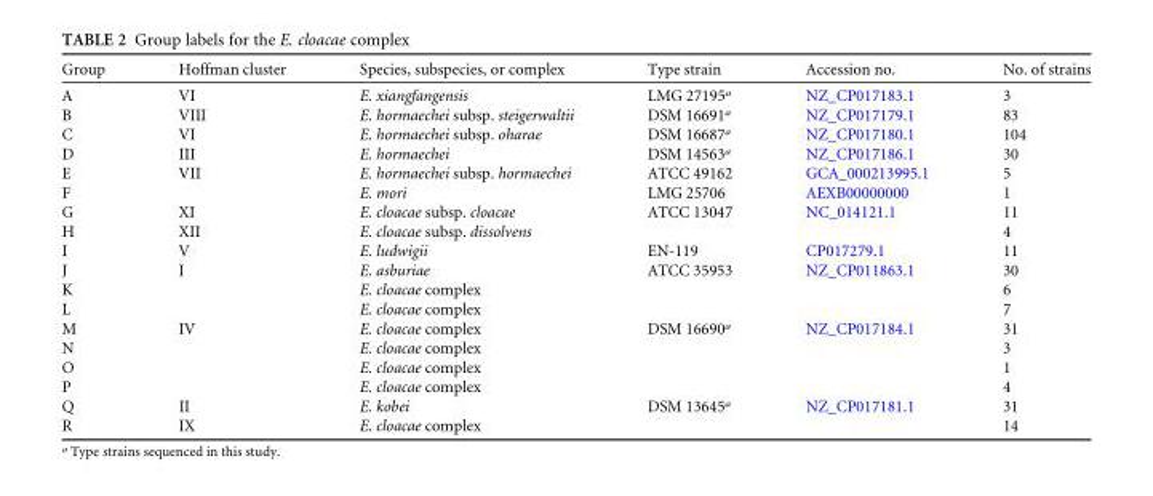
<table><thead><tr><td>Group</td><td>Hoffman cluster</td><td>Species, subspecies, or complex</td><td>Type strain</td><td>Accession no.</td><td>No. of strains</td></tr></thead><tbody><tr><td>A</td><td>VI</td><td>E. xiangfangensis</td><td>LMG 27195<sup>a</sup></td><td>NZ_CP017183.1</td><td>3</td></tr><tr><td>B</td><td>VIII</td><td>E. hormaechei subsp. steigerwaltii</td><td>DSM 16691<sup>a</sup></td><td>NZ_CP017179.1</td><td>83</td></tr><tr><td>C</td><td>VI</td><td>E. hormaechei subsp. oharae</td><td>DSM 16687<sup>a</sup></td><td>NZ_CP017180.1</td><td>104</td></tr><tr><td>D</td><td>III</td><td>E. hormaechei</td><td>DSM 14563<sup>a</sup></td><td>NZ_CP017186.1</td><td>30</td></tr><tr><td>E</td><td>VII</td><td>E. hormaechei subsp. hormaechei</td><td>ATCC 49162</td><td>GCA_000213995.1</td><td>5</td></tr><tr><td>F</td><td></td><td>E. mori</td><td>LMG 25706</td><td>AEXB00000000</td><td>1</td></tr><tr><td>G</td><td>XI</td><td>E. cloacae subsp. cloacae</td><td>ATCC 13047</td><td>NC_014121.1</td><td>11</td></tr><tr><td>H</td><td>XII</td><td>E. cloacae subsp. dissolvens</td><td></td><td></td><td>4</td></tr><tr><td>I</td><td>V</td><td>E. ludwigii</td><td>EN-119</td><td>CP017279.1</td><td>11</td></tr><tr><td>J</td><td>I</td><td>E. asburiae</td><td>ATCC 35953</td><td>NZ_CP011863.1</td><td>30</td></tr><tr><td>K</td><td></td><td>E. cloacae complex</td><td></td><td></td><td>6</td></tr><tr><td>L</td><td></td><td>E. cloacae complex</td><td></td><td></td><td>7</td></tr><tr><td>M</td><td>IV</td><td>E. cloacae complex</td><td>DSM 16690<sup>a</sup></td><td>NZ_CP017184.1</td><td>31</td></tr><tr><td>N</td><td></td><td>E. cloacae complex</td><td></td><td></td><td>3</td></tr><tr><td>O</td><td></td><td>E. cloacae complex</td><td></td><td></td><td>1</td></tr><tr><td>P</td><td></td><td>E. cloacae complex</td><td></td><td></td><td>4</td></tr><tr><td>Q</td><td>II</td><td>E. kobei</td><td>DSM 13645<sup>a</sup></td><td>NZ_CP017181.1</td><td>31</td></tr><tr><td>R</td><td>IX</td><td>E. cloacae complex</td><td></td><td></td><td>14</td></tr></tbody></table>